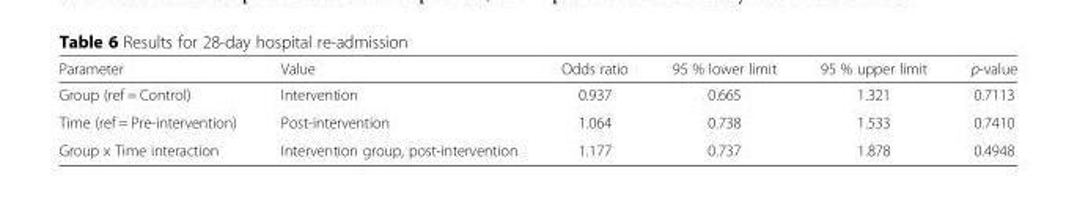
<table><thead><tr><td>Parameter</td><td>Value</td><td>Odds ratio</td><td>95 % lower limit</td><td>95 % upper limit</td><td>p-value</td></tr></thead><tbody><tr><td>Group (ref = Control)</td><td>Intervention</td><td>0.937</td><td>0.665</td><td>1.321</td><td>0.7113</td></tr><tr><td>Time (ref = Pre-intervention)</td><td>Post-intervention</td><td>1.064</td><td>0.738</td><td>1.533</td><td>0.7410</td></tr><tr><td>Group x Time interaction</td><td>Intervention group, post-intervention</td><td>1.177</td><td>0.737</td><td>1.878</td><td>0.4948</td></tr></tbody></table>